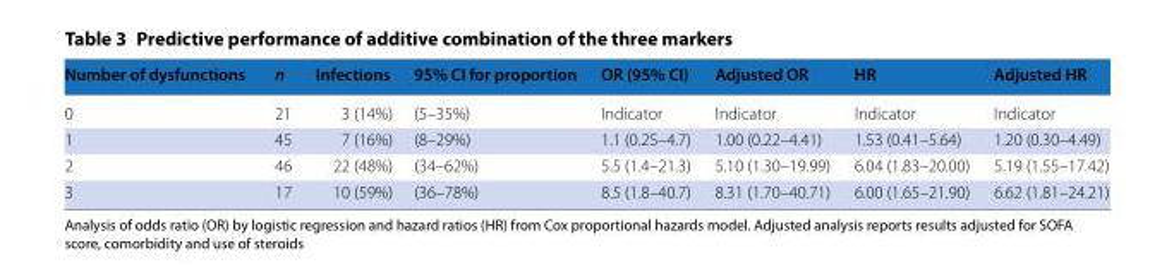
<table><thead><tr><td>Number of dysfunctions</td><td>n</td><td>Infections</td><td>95% CI for proportion</td><td>OR (95% CI)</td><td>Adjusted OR</td><td>HR</td><td>Adjusted HR</td></tr></thead><tbody><tr><td>0</td><td>21</td><td>3 (14%)</td><td>(5–35%)</td><td>Indicator</td><td>Indicator</td><td>Indicator</td><td>Indicator</td></tr><tr><td>1</td><td>45</td><td>7 (16%)</td><td>(8–29%)</td><td>1.1 (0.25–4.7)</td><td>1.00 (0.22–4.41)</td><td>1.53 (0.41–5.64)</td><td>1.20 (0.30–4.49)</td></tr><tr><td>2</td><td>46</td><td>22 (48%)</td><td>(34–62%)</td><td>5.5 (1.4–21.3)</td><td>5.10 (1.30–19.99)</td><td>6.04 (1.83–20.00)</td><td>5.19 (1.55–17.42)</td></tr><tr><td>3</td><td>17</td><td>10 (59%)</td><td>(36–78%)</td><td>8.5 (1.8–40.7)</td><td>8.31 (1.70–40.71)</td><td>6.00 (1.65–21.90)</td><td>6.62 (1.81–24.21)</td></tr></tbody></table>